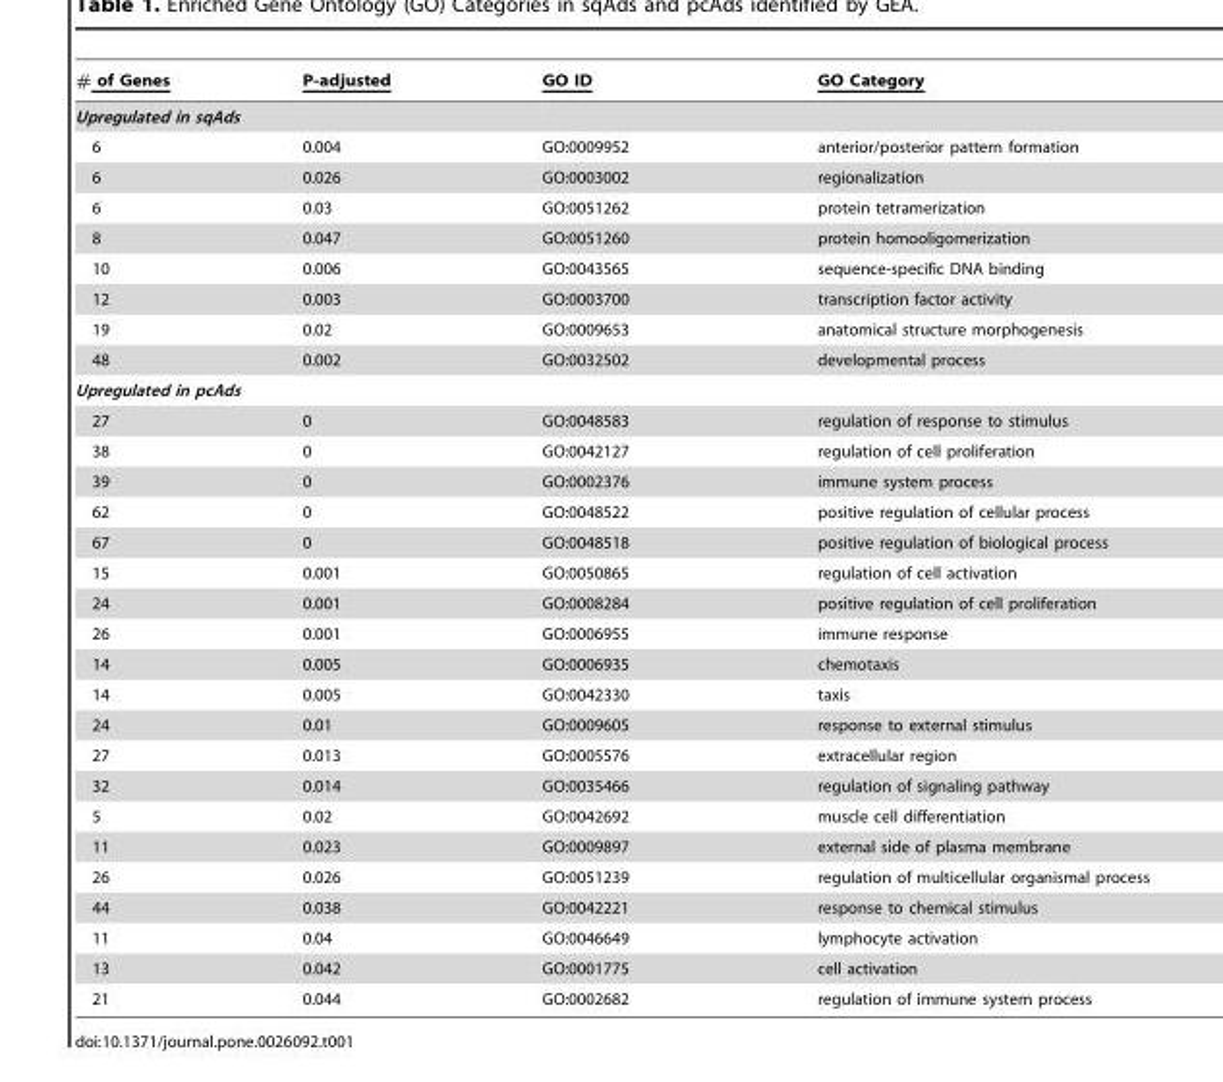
<table><thead><tr><td># of Genes</td><td>P-adjusted</td><td>GO ID</td><td>GO Category</td></tr></thead><tbody><tr><td colspan="4">Upregulated in sqAds</td></tr><tr><td>6</td><td>0.004</td><td>GO:0009952</td><td>anterior/posterior pattern formation</td></tr><tr><td>6</td><td>0.026</td><td>GO:0003002</td><td>regionalization</td></tr><tr><td>6</td><td>0.03</td><td>GO:0051262</td><td>protein tetramerization</td></tr><tr><td>8</td><td>0.047</td><td>GO:0051260</td><td>protein homooligomerization</td></tr><tr><td>10</td><td>0.006</td><td>GO:0043565</td><td>sequence-specific DNA binding</td></tr><tr><td>12</td><td>0.003</td><td>GO:0003700</td><td>transcription factor activity</td></tr><tr><td>19</td><td>0.02</td><td>GO:0009653</td><td>anatomical structure morphogenesis</td></tr><tr><td>48</td><td>0.002</td><td>GO:0032502</td><td>developmental process</td></tr><tr><td colspan="4">Upregulated in pcAds</td></tr><tr><td>27</td><td>0</td><td>GO:0048583</td><td>regulation of response to stimulus</td></tr><tr><td>38</td><td>0</td><td>GO:0042127</td><td>regulation of cell proliferation</td></tr><tr><td>39</td><td>0</td><td>GO:0002376</td><td>immune system process</td></tr><tr><td>62</td><td>0</td><td>GO:0048522</td><td>positive regulation of cellular process</td></tr><tr><td>67</td><td>0</td><td>GO:0048518</td><td>positive regulation of biological process</td></tr><tr><td>15</td><td>0.001</td><td>GO:0050865</td><td>regulation of cell activation</td></tr><tr><td>24</td><td>0.001</td><td>GO:0008284</td><td>positive regulation of cell proliferation</td></tr><tr><td>26</td><td>0.001</td><td>GO:0006955</td><td>immune response</td></tr><tr><td>14</td><td>0.005</td><td>GO:0006935</td><td>chemotaxis</td></tr><tr><td>14</td><td>0.005</td><td>GO:0042330</td><td>taxis</td></tr><tr><td>24</td><td>0.01</td><td>GO:0009605</td><td>response to external stimulus</td></tr><tr><td>27</td><td>0.013</td><td>GO:0005576</td><td>extracellular region</td></tr><tr><td>32</td><td>0.014</td><td>GO:0035466</td><td>regulation of signaling pathway</td></tr><tr><td>5</td><td>0.02</td><td>GO:0042692</td><td>muscle cell differentiation</td></tr><tr><td>11</td><td>0.023</td><td>GO:0009897</td><td>external side of plasma membrane</td></tr><tr><td>26</td><td>0.026</td><td>GO:0051239</td><td>regulation of multicellular organismal process</td></tr><tr><td>44</td><td>0.038</td><td>GO:0042221</td><td>response to chemical stimulus</td></tr><tr><td>11</td><td>0.04</td><td>GO:0046649</td><td>lymphocyte activation</td></tr><tr><td>13</td><td>0.042</td><td>GO:0001775</td><td>cell activation</td></tr><tr><td>21</td><td>0.044</td><td>GO:0002682</td><td>regulation of immune system process</td></tr></tbody></table>